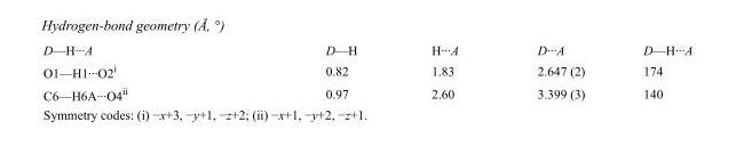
<table><tbody><tr><td>D—H···A</td><td>D—H</td><td>H···A</td><td>D···A</td><td>D—H···A</td></tr><tr><td>O1—H1···O2<sup>i</sup></td><td>0.82</td><td>1.83</td><td>2.647 (2)</td><td>174</td></tr><tr><td>C6—H6A···O4<sup>ii</sup></td><td>0.97</td><td>2.60</td><td>3.399 (3)</td><td>140</td></tr></tbody></table>